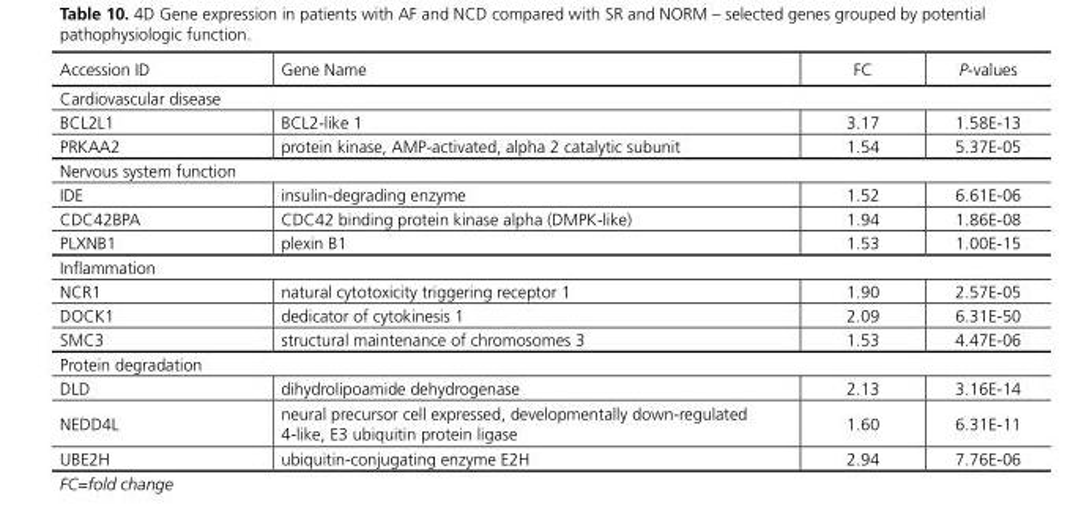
<table><thead><tr><td>Accession ID</td><td>Gene Name</td><td>FC</td><td>P-values</td></tr></thead><tbody><tr><td colspan="4">Cardiovascular disease</td></tr><tr><td>BCL2L1</td><td>BCL2-like 1</td><td>3.17</td><td>1.58E-13</td></tr><tr><td>PRKAA2</td><td>protein kinase, AMP-activated, alpha 2 catalytic subunit</td><td>1.54</td><td>5.37E-05</td></tr><tr><td colspan="4">Nervous system function</td></tr><tr><td>IDE</td><td>insulin-degrading enzyme</td><td>1.52</td><td>6.61E-06</td></tr><tr><td>CDC42BPA</td><td>CDC42 binding protein kinase alpha (DMPK-like)</td><td>1.94</td><td>1.86E-08</td></tr><tr><td>PLXNB1</td><td>plexin B1</td><td>1.53</td><td>1.00E-15</td></tr><tr><td colspan="4">Inflammation</td></tr><tr><td>NCR1</td><td>natural cytotoxicity triggering receptor 1</td><td>1.90</td><td>2.57E-05</td></tr><tr><td>DOCK1</td><td>dedicator of cytokinesis 1</td><td>2.09</td><td>6.31E-50</td></tr><tr><td>SMC3</td><td>structural maintenance of chromosomes 3</td><td>1.53</td><td>4.47E-06</td></tr><tr><td colspan="4">Protein degradation</td></tr><tr><td>DLD</td><td>dihydrolipoamide dehydrogenase</td><td>2.13</td><td>3.16E-14</td></tr><tr><td>NEDD4L</td><td>neural precursor cell expressed, developmentally down-regulated 4-like, E3 ubiquitin protein ligase</td><td>1.60</td><td>6.31E-11</td></tr><tr><td>UBE2H</td><td>ubiquitin-conjugating enzyme E2H</td><td>2.94</td><td>7.76E-06</td></tr></tbody></table>